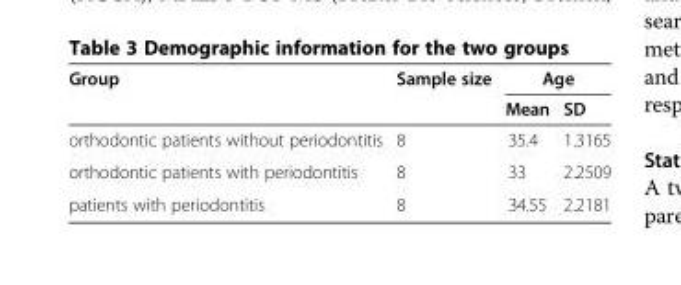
<table><thead><tr><td rowspan="2">Group</td><td rowspan="2">Sample size</td><td colspan="2">Age</td></tr><tr><td>Mean</td><td>SD</td></tr></thead><tbody><tr><td>orthodontic patients without periodontitis</td><td>8</td><td>35.4</td><td>1.3165</td></tr><tr><td>orthodontic patients with periodontitis</td><td>8</td><td>33</td><td>2.2509</td></tr><tr><td>patients with periodontitis</td><td>8</td><td>34.55</td><td>2.2181</td></tr></tbody></table>